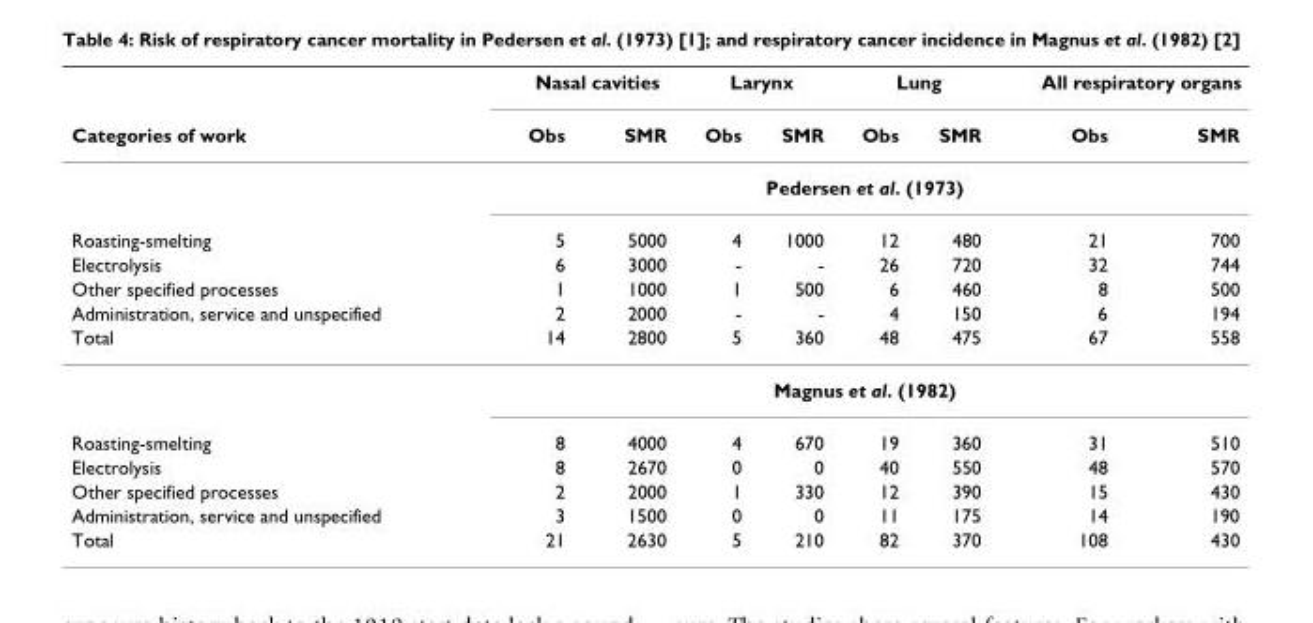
<table><thead><tr><td rowspan="2">Categories of work</td><td colspan="2">Nasal cavities</td><td colspan="2">Larynx</td><td colspan="2">Lung</td><td colspan="2">All respiratory organs</td></tr><tr><td>Obs</td><td>SMR</td><td>Obs</td><td>SMR</td><td>Obs</td><td>SMR</td><td>Obs</td><td>SMR</td></tr></thead><tbody><tr><td></td><td colspan="8">Pedersen et al. (1973)</td></tr><tr><td>Roasting-smelting</td><td>5</td><td>5000</td><td>4</td><td>1000</td><td>12</td><td>480</td><td>21</td><td>700</td></tr><tr><td>Electrolysis</td><td>6</td><td>3000</td><td>-</td><td>-</td><td>26</td><td>720</td><td>32</td><td>744</td></tr><tr><td>Other specified processes</td><td>1</td><td>1000</td><td>1</td><td>500</td><td>6</td><td>460</td><td>8</td><td>500</td></tr><tr><td>Administration, service and unspecified</td><td>2</td><td>2000</td><td>-</td><td>-</td><td>4</td><td>150</td><td>6</td><td>194</td></tr><tr><td rowspan="2">Total</td><td>14</td><td>2800</td><td>5</td><td>360</td><td>48</td><td>475</td><td>67</td><td>558</td></tr><tr><td colspan="8">Magnus et al. (1982)</td></tr><tr><td>Roasting-smelting</td><td>8</td><td>4000</td><td>4</td><td>670</td><td>19</td><td>360</td><td>31</td><td>510</td></tr><tr><td>Electrolysis</td><td>8</td><td>2670</td><td>0</td><td>0</td><td>40</td><td>550</td><td>48</td><td>570</td></tr><tr><td>Other specified processes</td><td>2</td><td>2000</td><td>1</td><td>330</td><td>12</td><td>390</td><td>15</td><td>430</td></tr><tr><td>Administration, service and unspecified</td><td>3</td><td>1500</td><td>0</td><td>0</td><td>11</td><td>175</td><td>14</td><td>190</td></tr><tr><td>Total</td><td>21</td><td>2630</td><td>5</td><td>210</td><td>82</td><td>370</td><td>108</td><td>430</td></tr></tbody></table>